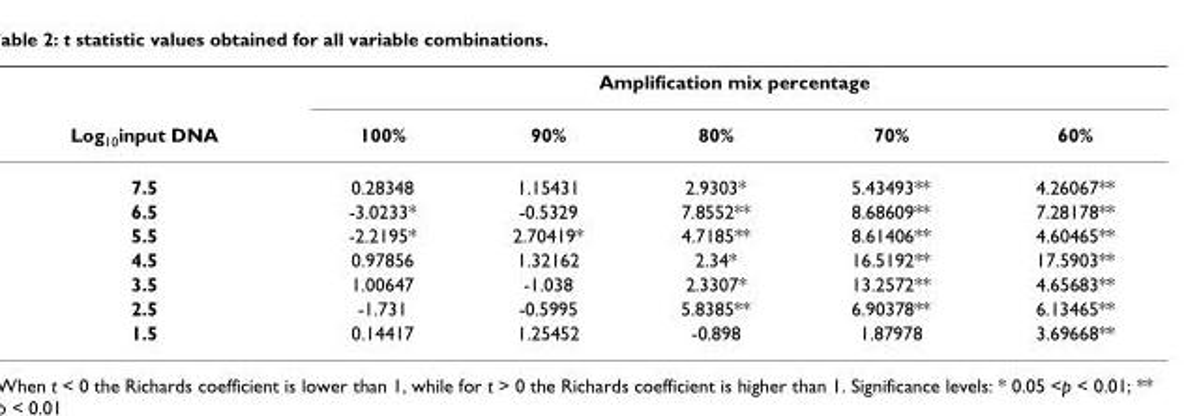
<table><thead><tr><td rowspan="2">Log<sub>10</sub>input DNA</td><td colspan="5">Amplification mix percentage</td></tr><tr><td>100%</td><td>90%</td><td>80%</td><td>70%</td><td>60%</td></tr></thead><tbody><tr><td>7.5</td><td>0.28348</td><td>1.15431</td><td>2.9303*</td><td>5.43493**</td><td>4.26067**</td></tr><tr><td>6.5</td><td>-3.0233*</td><td>-0.5329</td><td>7.8552**</td><td>8.68609**</td><td>7.28178**</td></tr><tr><td>5.5</td><td>-2.2195*</td><td>2.70419*</td><td>4.7185**</td><td>8.61406**</td><td>4.60465**</td></tr><tr><td>4.5</td><td>0.97856</td><td>1.32162</td><td>2.34*</td><td>16.5192**</td><td>17.5903**</td></tr><tr><td>3.5</td><td>1.00647</td><td>-1.038</td><td>2.3307*</td><td>13.2572**</td><td>4.65683**</td></tr><tr><td>2.5</td><td>-1.731</td><td>-0.5995</td><td>5.8385**</td><td>6.90378**</td><td>6.13465**</td></tr><tr><td>1.5</td><td>0.14417</td><td>1.25452</td><td>-0.898</td><td>1.87978</td><td>3.69668**</td></tr></tbody></table>